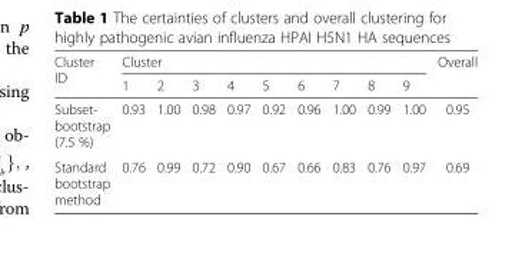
<table><thead><tr><td rowspan="2">Cluster ID</td><td colspan="9">Cluster</td><td rowspan="2">Overall</td></tr><tr><td>1</td><td>2</td><td>3</td><td>4</td><td>5</td><td>6</td><td>7</td><td>8</td><td>9</td></tr></thead><tbody><tr><td>Subset- bootstrap (7.5 %)</td><td>0.93</td><td>1.00</td><td>0.98</td><td>0.97</td><td>0.92</td><td>0.96</td><td>1.00</td><td>0.99</td><td>1.00</td><td>0.95</td></tr><tr><td>Standard bootstrap method</td><td>0.76</td><td>0.99</td><td>0.72</td><td>0.90</td><td>0.67</td><td>0.66</td><td>0.83</td><td>0.76</td><td>0.97</td><td>0.69</td></tr></tbody></table>